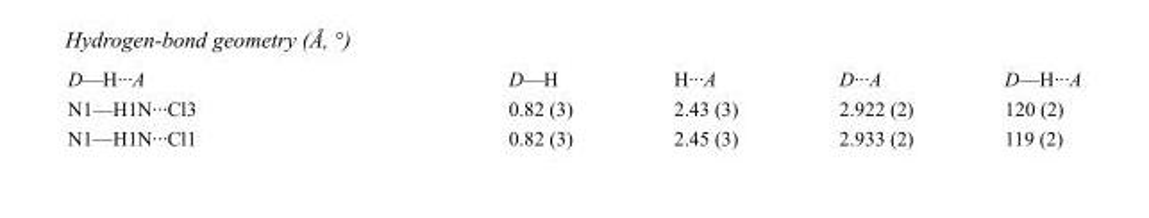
<table><tbody><tr><td>D—H···A</td><td>D—H</td><td>H···A</td><td>D···A</td><td>D—H···A</td></tr><tr><td>N1—H1N···Cl3</td><td>0.82 (3)</td><td>2.43 (3)</td><td>2.922 (2)</td><td>120 (2)</td></tr><tr><td>N1—H1N···Cl1</td><td>0.82 (3)</td><td>2.45 (3)</td><td>2.933 (2)</td><td>119 (2)</td></tr></tbody></table>